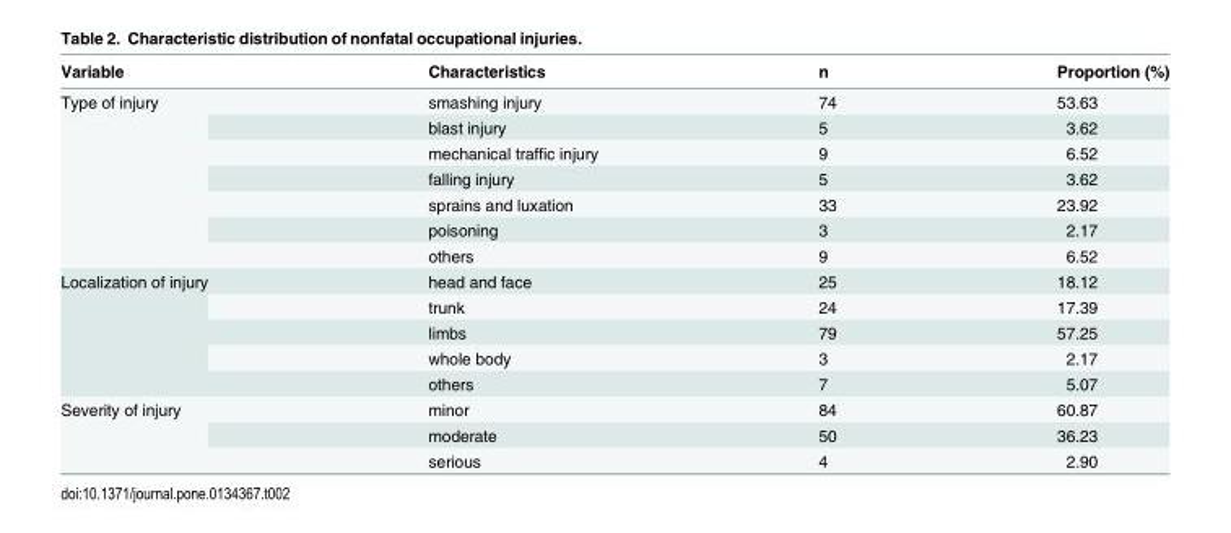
<table><thead><tr><td>Variable</td><td>Characteristics</td><td>n</td><td>Proportion (%)</td></tr></thead><tbody><tr><td rowspan="7">Type of injury</td><td>smashing injury</td><td>74</td><td>53.63</td></tr><tr><td>blast injury</td><td>5</td><td>3.62</td></tr><tr><td>mechanical traffic injury</td><td>9</td><td>6.52</td></tr><tr><td>falling injury</td><td>5</td><td>3.62</td></tr><tr><td>sprains and luxation</td><td>33</td><td>23.92</td></tr><tr><td>poisoning</td><td>3</td><td>2.17</td></tr><tr><td>others</td><td>9</td><td>6.52</td></tr><tr><td rowspan="5">Localization of injury</td><td>head and face</td><td>25</td><td>18.12</td></tr><tr><td>trunk</td><td>24</td><td>17.39</td></tr><tr><td>limbs</td><td>79</td><td>57.25</td></tr><tr><td>whole body</td><td>3</td><td>2.17</td></tr><tr><td>others</td><td>7</td><td>5.07</td></tr><tr><td rowspan="3">Severity of injury</td><td>minor</td><td>84</td><td>60.87</td></tr><tr><td>moderate</td><td>50</td><td>36.23</td></tr><tr><td>serious</td><td>4</td><td>2.90</td></tr></tbody></table>